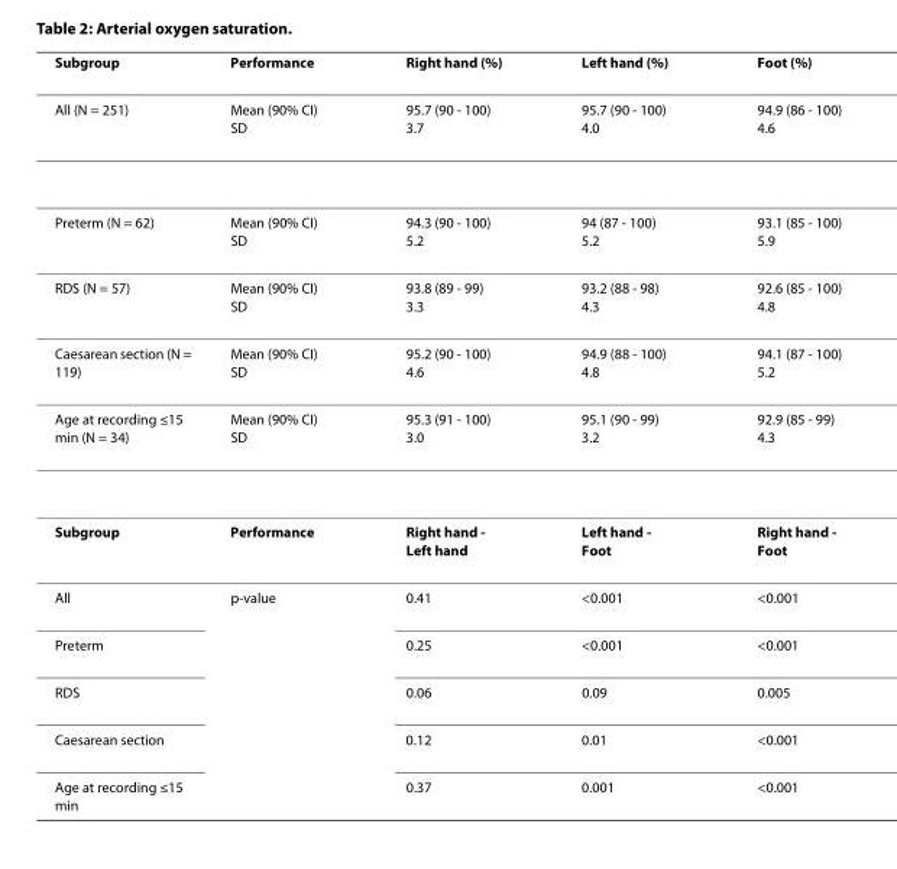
<table><thead><tr><td>Subgroup</td><td>Performance</td><td>Right hand (%)</td><td>Left hand (%)</td><td>Foot (%)</td></tr></thead><tbody><tr><td>All (N = 251)</td><td>Mean (90% CI) SD</td><td>95.7 (90 - 100) 3.7</td><td>95.7 (90 - 100) 4.0</td><td>94.9 (86 - 100) 4.6</td></tr><tr><td>Preterm (N = 62)</td><td>Mean (90% CI) SD</td><td>94.3 (90 - 100) 5.2</td><td>94 (87 - 100) 5.2</td><td>93.1 (85 - 100) 5.9</td></tr><tr><td>RDS (N = 57)</td><td>Mean (90% CI) SD</td><td>93.8 (89 - 99) 3.3</td><td>93.2 (88 - 98) 4.3</td><td>92.6 (85 - 100) 4.8</td></tr><tr><td>Caesarean section (N = 119)</td><td>Mean (90% CI) SD</td><td>95.2 (90 - 100) 4.6</td><td>94.9 (88 - 100) 4.8</td><td>94.1 (87 - 100) 5.2</td></tr><tr><td>Age at recording ≤15 min (N = 34)</td><td>Mean (90% CI) SD</td><td>95.3 (91 - 100) 3.0</td><td>95.1 (90 - 99) 3.2</td><td>92.9 (85 - 99) 4.3</td></tr><tr><td>Subgroup</td><td>Performance</td><td>Right hand - Left hand</td><td>Left hand - Foot</td><td>Right hand - Foot</td></tr><tr><td>All</td><td>p-value</td><td>0.41</td><td>&lt;0.001</td><td>&lt;0.001</td></tr><tr><td>Preterm</td><td></td><td>0.25</td><td>&lt;0.001</td><td>&lt;0.001</td></tr><tr><td>RDS</td><td></td><td>0.06</td><td>0.09</td><td>0.005</td></tr><tr><td>Caesarean section</td><td></td><td>0.12</td><td>0.01</td><td>&lt;0.001</td></tr><tr><td>Age at recording ≤15 min</td><td></td><td>0.37</td><td>0.001</td><td>&lt;0.001</td></tr></tbody></table>